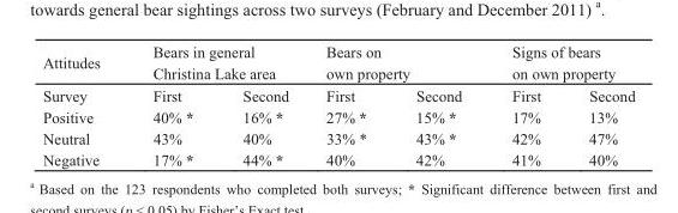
<table><thead><tr><td rowspan="2">Attitudes Survey</td><td colspan="2">Bears in general Christina Lake area</td><td colspan="2">Bears on own property</td><td colspan="2">Signs of bears on own property</td></tr><tr><td>First</td><td>Second</td><td>First</td><td>Second</td><td>First</td><td>Second</td></tr></thead><tbody><tr><td>Positive</td><td>40% *</td><td>16% *</td><td>27% *</td><td>15% *</td><td>17%</td><td>13%</td></tr><tr><td>Neutral</td><td>43%</td><td>40%</td><td>33% *</td><td>43% *</td><td>42%</td><td>47%</td></tr><tr><td>Negative</td><td>17% *</td><td>44% *</td><td>40%</td><td>42%</td><td>41%</td><td>40%</td></tr></tbody></table>